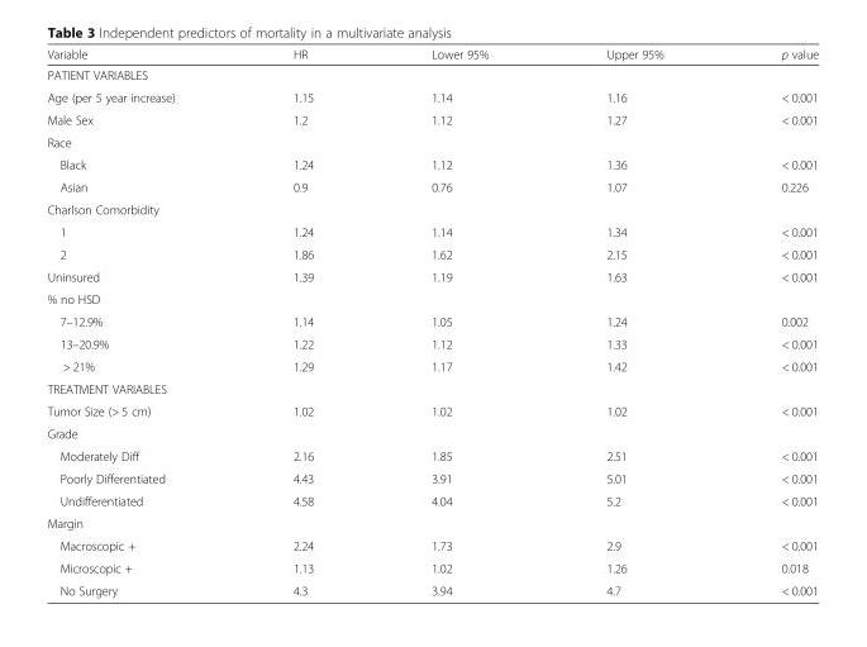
<table><thead><tr><td>Variable</td><td>HR</td><td>Lower 95%</td><td>Upper 95%</td><td>p value</td></tr></thead><tbody><tr><td colspan="5">PATIENT VARIABLES</td></tr><tr><td>Age (per 5 year increase)</td><td>1.15</td><td>1.14</td><td>1.16</td><td>&lt; 0.001</td></tr><tr><td>Male Sex</td><td>1.2</td><td>1.12</td><td>1.27</td><td>&lt; 0.001</td></tr><tr><td colspan="5">Race</td></tr><tr><td>Black</td><td>1.24</td><td>1.12</td><td>1.36</td><td>&lt; 0.001</td></tr><tr><td>Asian</td><td>0.9</td><td>0.76</td><td>1.07</td><td>0.226</td></tr><tr><td colspan="5">Charlson Comorbidity</td></tr><tr><td>1</td><td>1.24</td><td>1.14</td><td>1.34</td><td>&lt; 0.001</td></tr><tr><td>2</td><td>1.86</td><td>1.62</td><td>2.15</td><td>&lt; 0.001</td></tr><tr><td>Uninsured</td><td>1.39</td><td>1.19</td><td>1.63</td><td>&lt; 0.001</td></tr><tr><td colspan="5">% no HSD</td></tr><tr><td>7–12.9%</td><td>1.14</td><td>1.05</td><td>1.24</td><td>0.002</td></tr><tr><td>13–20.9%</td><td>1.22</td><td>1.12</td><td>1.33</td><td>&lt; 0.001</td></tr><tr><td>&gt; 21%</td><td>1.29</td><td>1.17</td><td>1.42</td><td>&lt; 0.001</td></tr><tr><td colspan="5">TREATMENT VARIABLES</td></tr><tr><td>Tumor Size (&gt; 5 cm)</td><td>1.02</td><td>1.02</td><td>1.02</td><td>&lt; 0.001</td></tr><tr><td colspan="5">Grade</td></tr><tr><td>Moderately Diff</td><td>2.16</td><td>1.85</td><td>2.51</td><td>&lt; 0.001</td></tr><tr><td>Poorly Differentiated</td><td>4.43</td><td>3.91</td><td>5.01</td><td>&lt; 0.001</td></tr><tr><td>Undifferentiated</td><td>4.58</td><td>4.04</td><td>5.2</td><td>&lt; 0.001</td></tr><tr><td colspan="5">Margin</td></tr><tr><td>Macroscopic +</td><td>2.24</td><td>1.73</td><td>2.9</td><td>&lt; 0.001</td></tr><tr><td>Microscopic +</td><td>1.13</td><td>1.02</td><td>1.26</td><td>0.018</td></tr><tr><td>No Surgery</td><td>4.3</td><td>3.94</td><td>4.7</td><td>&lt; 0.001</td></tr></tbody></table>